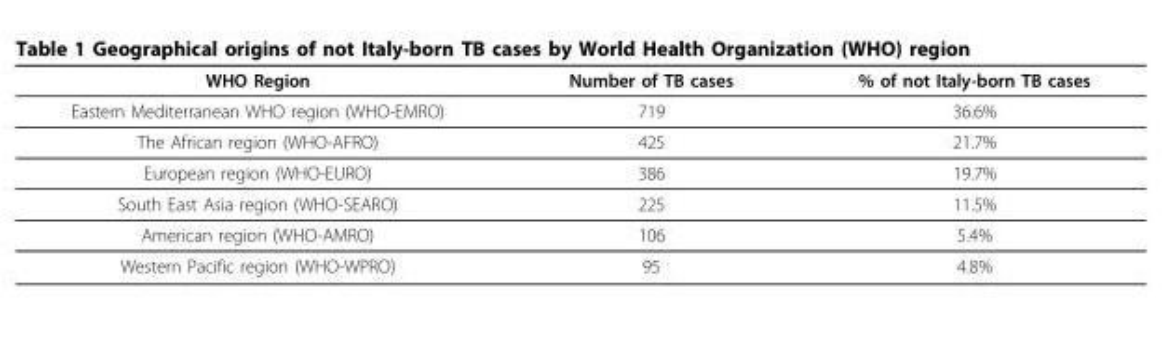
<table><thead><tr><td>WHO Region</td><td>Number of TB cases</td><td>% of not Italy-born TB cases</td></tr></thead><tbody><tr><td>Eastern Mediterranean WHO region (WHO-EMRO)</td><td>719</td><td>36.6%</td></tr><tr><td>The African region (WHO-AFRO)</td><td>425</td><td>21.7%</td></tr><tr><td>European region (WHO-EURO)</td><td>386</td><td>19.7%</td></tr><tr><td>South East Asia region (WHO-SEARO)</td><td>225</td><td>11.5%</td></tr><tr><td>American region (WHO-AMRO)</td><td>106</td><td>5.4%</td></tr><tr><td>Western Pacific region (WHO-WPRO)</td><td>95</td><td>4.8%</td></tr></tbody></table>